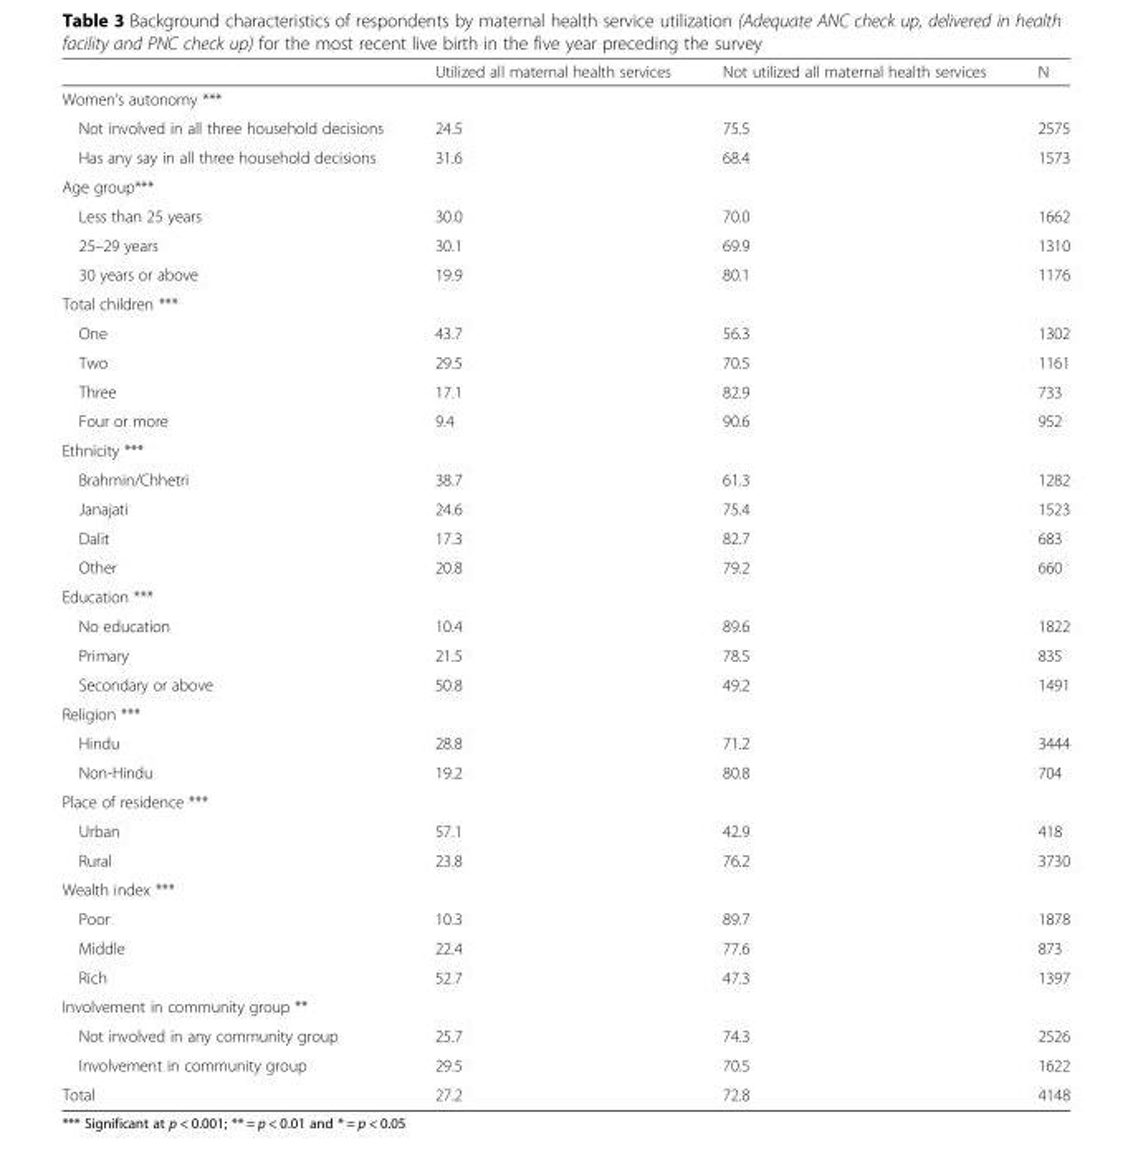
<table><thead><tr><td></td><td>Utilized all maternal health services</td><td>Not utilized all maternal health services</td><td>N</td></tr></thead><tbody><tr><td colspan="4">Women’s autonomy ***</td></tr><tr><td>Not involved in all three household decisions</td><td>24.5</td><td>75.5</td><td>2575</td></tr><tr><td>Has any say in all three household decisions</td><td>31.6</td><td>68.4</td><td>1573</td></tr><tr><td colspan="4">Age group***</td></tr><tr><td>Less than 25 years</td><td>30.0</td><td>70.0</td><td>1662</td></tr><tr><td>25–29 years</td><td>30.1</td><td>69.9</td><td>1310</td></tr><tr><td>30 years or above</td><td>19.9</td><td>80.1</td><td>1176</td></tr><tr><td colspan="4">Total children ***</td></tr><tr><td>One</td><td>43.7</td><td>56.3</td><td>1302</td></tr><tr><td>Two</td><td>29.5</td><td>70.5</td><td>1161</td></tr><tr><td>Three</td><td>17.1</td><td>82.9</td><td>733</td></tr><tr><td>Four or more</td><td>9.4</td><td>90.6</td><td>952</td></tr><tr><td colspan="4">Ethnicity ***</td></tr><tr><td>Brahmin/Chhetri</td><td>38.7</td><td>61.3</td><td>1282</td></tr><tr><td>Janajati</td><td>24.6</td><td>75.4</td><td>1523</td></tr><tr><td>Dalit</td><td>17.3</td><td>82.7</td><td>683</td></tr><tr><td>Other</td><td>20.8</td><td>79.2</td><td>660</td></tr><tr><td colspan="4">Education ***</td></tr><tr><td>No education</td><td>10.4</td><td>89.6</td><td>1822</td></tr><tr><td>Primary</td><td>21.5</td><td>78.5</td><td>835</td></tr><tr><td>Secondary or above</td><td>50.8</td><td>49.2</td><td>1491</td></tr><tr><td colspan="4">Religion ***</td></tr><tr><td>Hindu</td><td>28.8</td><td>71.2</td><td>3444</td></tr><tr><td>Non-Hindu</td><td>19.2</td><td>80.8</td><td>704</td></tr><tr><td colspan="4">Place of residence ***</td></tr><tr><td>Urban</td><td>57.1</td><td>42.9</td><td>418</td></tr><tr><td>Rural</td><td>23.8</td><td>76.2</td><td>3730</td></tr><tr><td colspan="4">Wealth index ***</td></tr><tr><td>Poor</td><td>10.3</td><td>89.7</td><td>1878</td></tr><tr><td>Middle</td><td>22.4</td><td>77.6</td><td>873</td></tr><tr><td>Rich</td><td>52.7</td><td>47.3</td><td>1397</td></tr><tr><td colspan="4">Involvement in community group **</td></tr><tr><td>Not involved in any community group</td><td>25.7</td><td>74.3</td><td>2526</td></tr><tr><td>Involvement in community group</td><td>29.5</td><td>70.5</td><td>1622</td></tr><tr><td>Total</td><td>27.2</td><td>72.8</td><td>4148</td></tr></tbody></table>